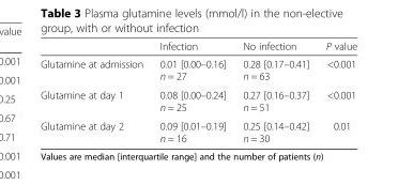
<table><thead><tr><td></td><td>Infection</td><td>No infection</td><td>P value</td></tr></thead><tbody><tr><td>Glutamine at admission</td><td>0.01 [0.00–0.16] n = 27</td><td>0.28 [0.17–0.41] n = 63</td><td>&lt;0.001</td></tr><tr><td>Glutamine at day 1</td><td>0.08 [0.00–0.24] n = 25</td><td>0.27 [0.16–0.37] n = 51</td><td>&lt;0.001</td></tr><tr><td>Glutamine at day 2</td><td>0.09 [0.01–0.19] n = 16</td><td>0.25 [0.14–0.42] n = 30</td><td>0.01</td></tr></tbody></table>